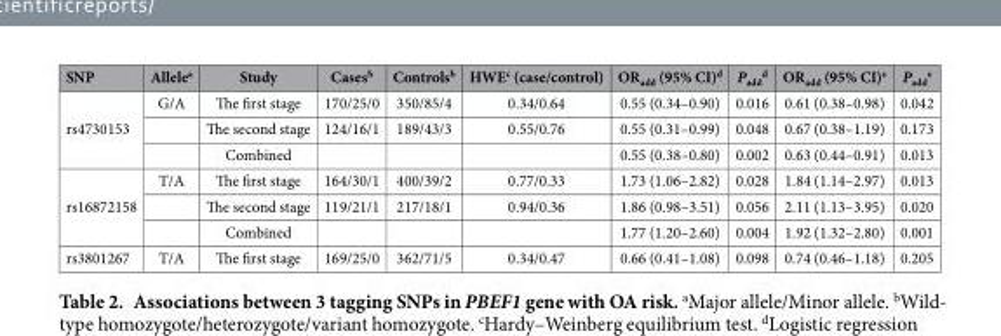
<table><thead><tr><td>SNP</td><td>Allele<sup>a</sup></td><td>Study</td><td>Cases<sup>b</sup></td><td>Controls<sup>b</sup></td><td>HWE<sup>c</sup> (case/control)</td><td>OR<sub>add</sub> (95% CI)<sup>d</sup></td><td>P<sub>add</sub> <sup>d</sup></td><td>OR<sub>add</sub> (95% CI)<sup>e</sup></td><td>P<sub>add</sub> <sup>e</sup></td></tr></thead><tbody><tr><td rowspan="3">rs4730153</td><td>G/A</td><td>The first stage</td><td>170/25/0</td><td>350/85/4</td><td>0.34/0.64</td><td>0.55 (0.34–0.90)</td><td>0.016</td><td>0.61 (0.38–0.98)</td><td>0.042</td></tr><tr><td></td><td>The second stage</td><td>124/16/1</td><td>189/43/3</td><td>0.55/0.76</td><td>0.55 (0.31–0.99)</td><td>0.048</td><td>0.67 (0.38–1.19)</td><td>0.173</td></tr><tr><td></td><td>Combined</td><td></td><td></td><td></td><td>0.55 (0.38–0.80)</td><td>0.002</td><td>0.63 (0.44–0.91)</td><td>0.013</td></tr><tr><td rowspan="3">rs16872158</td><td>T/A</td><td>The first stage</td><td>164/30/1</td><td>400/39/2</td><td>0.77/0.33</td><td>1.73 (1.06–2.82)</td><td>0.028</td><td>1.84 (1.14–2.97)</td><td>0.013</td></tr><tr><td></td><td>The second stage</td><td>119/21/1</td><td>217/18/1</td><td>0.94/0.36</td><td>1.86 (0.98–3.51)</td><td>0.056</td><td>2.11 (1.13–3.95)</td><td>0.020</td></tr><tr><td></td><td>Combined</td><td></td><td></td><td></td><td>1.77 (1.20–2.60)</td><td>0.004</td><td>1.92 (1.32–2.80)</td><td>0.001</td></tr><tr><td>rs3801267</td><td>T/A</td><td>The first stage</td><td>169/25/0</td><td>362/71/5</td><td>0.34/0.47</td><td>0.66 (0.41–1.08)</td><td>0.098</td><td>0.74 (0.46–1.18)</td><td>0.205</td></tr></tbody></table>